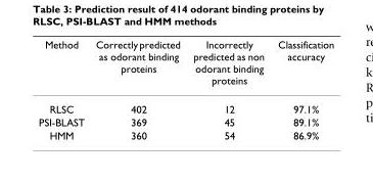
<table><thead><tr><td>Method</td><td>Correctly predicted as odorant binding proteins</td><td>Incorrectly predicted as non odorant binding proteins</td><td>Classification accuracy</td></tr></thead><tbody><tr><td>RLSC</td><td>402</td><td>12</td><td>97.1%</td></tr><tr><td>PSI-BLAST</td><td>369</td><td>45</td><td>89.1%</td></tr><tr><td>HMM</td><td>360</td><td>54</td><td>86.9%</td></tr></tbody></table>